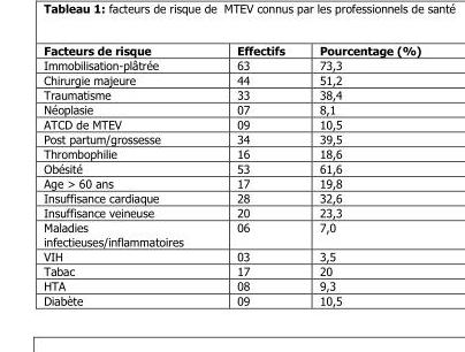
<table><thead><tr><td>Facteurs de risque</td><td>Effectifs</td><td>Pourcentage (%)</td></tr></thead><tbody><tr><td>Immobilisation-plâtrée</td><td>63</td><td>73,3</td></tr><tr><td>Chirurgie majeure</td><td>44</td><td>51,2</td></tr><tr><td>Traumatisme</td><td>33</td><td>38,4</td></tr><tr><td>Néoplasie</td><td>07</td><td>8,1</td></tr><tr><td>ATCD de MTEV</td><td>09</td><td>10,5</td></tr><tr><td>Post partum/grossesse</td><td>34</td><td>39,5</td></tr><tr><td>Thrombophilie</td><td>16</td><td>18,6</td></tr><tr><td>Obésité</td><td>53</td><td>61,6</td></tr><tr><td>Age &gt; 60 ans</td><td>17</td><td>19,8</td></tr><tr><td>Insuffisance cardiaque</td><td>28</td><td>32,6</td></tr><tr><td>Insuffisance veineuse</td><td>20</td><td>23,3</td></tr><tr><td>Maladies infectieuses/inflammatoires</td><td>06</td><td>7,0</td></tr><tr><td>VIH</td><td>03</td><td>3,5</td></tr><tr><td>Tabac</td><td>17</td><td>20</td></tr><tr><td>HTA</td><td>08</td><td>9,3</td></tr><tr><td>Diabète</td><td>09</td><td>10,5</td></tr></tbody></table>